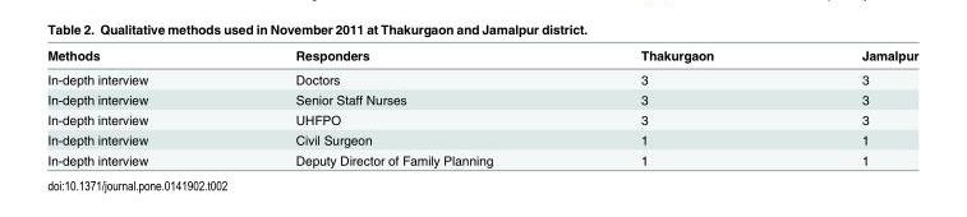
<table><thead><tr><td>Methods</td><td>Responders</td><td>Thakurgaon</td><td>Jamalpur</td></tr></thead><tbody><tr><td>In-depth interview</td><td>Doctors</td><td>3</td><td>3</td></tr><tr><td>In-depth interview</td><td>Senior Staff Nurses</td><td>3</td><td>3</td></tr><tr><td>In-depth interview</td><td>UHFPO</td><td>3</td><td>3</td></tr><tr><td>In-depth interview</td><td>Civil Surgeon</td><td>1</td><td>1</td></tr><tr><td>In-depth interview</td><td>Deputy Director of Family Planning</td><td>1</td><td>1</td></tr></tbody></table>